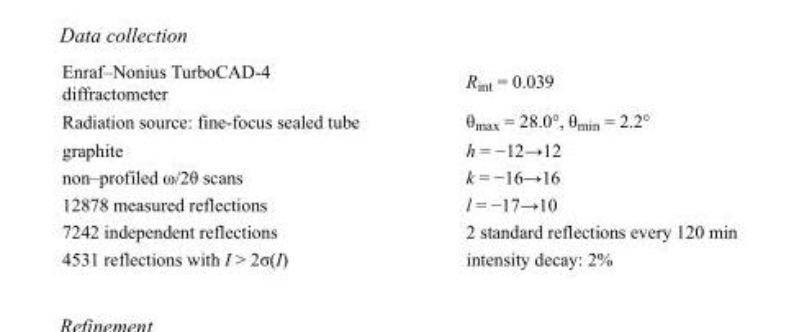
<table><tbody><tr><td>Enraf–Nonius TurboCAD-4 diffractometer</td><td>R<sub>int</sub> = 0.039</td></tr><tr><td>Radiation source: fine-focus sealed tube</td><td>θ<sub>max</sub> = 28.0°, θ<sub>min</sub> = 2.2°</td></tr><tr><td>graphite</td><td>h = −12→12</td></tr><tr><td>non–profiled ω/2θ scans</td><td>k = −16→16</td></tr><tr><td>12878 measured reflections</td><td>l = −17→10</td></tr><tr><td>7242 independent reflections</td><td>2 standard reflections every 120 min</td></tr><tr><td>4531 reflections with I &gt; 2σ(I)</td><td>intensity decay: 2%</td></tr></tbody></table>